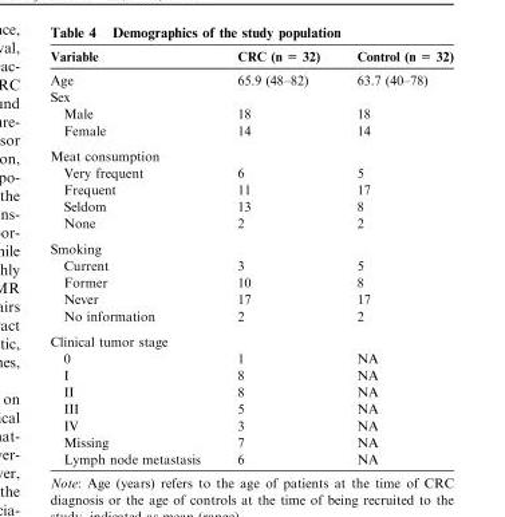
<table><thead><tr><td>Variable</td><td>CRC (n = 32)</td><td>Control (n = 32)</td></tr></thead><tbody><tr><td>Age</td><td>65.9 (48–82)</td><td>63.7 (40–78)</td></tr><tr><td colspan="3">Sex</td></tr><tr><td>Male</td><td>18</td><td>18</td></tr><tr><td>Female</td><td>14</td><td>14</td></tr><tr><td colspan="3">Meat consumption</td></tr><tr><td>Very frequent</td><td>6</td><td>5</td></tr><tr><td>Frequent</td><td>11</td><td>17</td></tr><tr><td>Seldom</td><td>13</td><td>8</td></tr><tr><td>None</td><td>2</td><td>2</td></tr><tr><td colspan="3">Smoking</td></tr><tr><td>Current</td><td>3</td><td>5</td></tr><tr><td>Former</td><td>10</td><td>8</td></tr><tr><td>Never</td><td>17</td><td>17</td></tr><tr><td>No information</td><td>2</td><td>2</td></tr><tr><td colspan="3">Clinical tumor stage</td></tr><tr><td>0</td><td>1</td><td>NA</td></tr><tr><td>I</td><td>8</td><td>NA</td></tr><tr><td>II</td><td>8</td><td>NA</td></tr><tr><td>III</td><td>5</td><td>NA</td></tr><tr><td>IV</td><td>3</td><td>NA</td></tr><tr><td>Missing</td><td>7</td><td>NA</td></tr><tr><td>Lymph node metastasis</td><td>6</td><td>NA</td></tr></tbody></table>